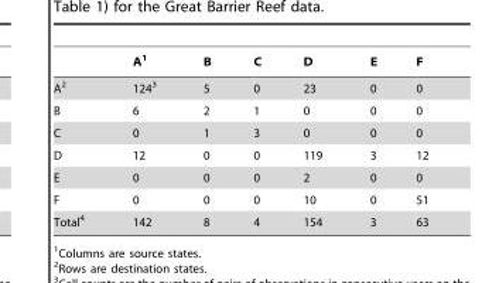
<table><thead><tr><td></td><td>A<sup>1</sup></td><td>B</td><td>C</td><td>D</td><td>E</td><td>F</td></tr></thead><tbody><tr><td>A<sup>2</sup></td><td>124<sup>3</sup></td><td>5</td><td>0</td><td>23</td><td>0</td><td>0</td></tr><tr><td>B</td><td>6</td><td>2</td><td>1</td><td>0</td><td>0</td><td>0</td></tr><tr><td>C</td><td>0</td><td>1</td><td>3</td><td>0</td><td>0</td><td>0</td></tr><tr><td>D</td><td>12</td><td>0</td><td>0</td><td>119</td><td>3</td><td>12</td></tr><tr><td>E</td><td>0</td><td>0</td><td>0</td><td>2</td><td>0</td><td>0</td></tr><tr><td>F</td><td>0</td><td>0</td><td>0</td><td>10</td><td>0</td><td>51</td></tr><tr><td>Total<sup>4</sup></td><td>142</td><td>8</td><td>4</td><td>154</td><td>3</td><td>63</td></tr></tbody></table>